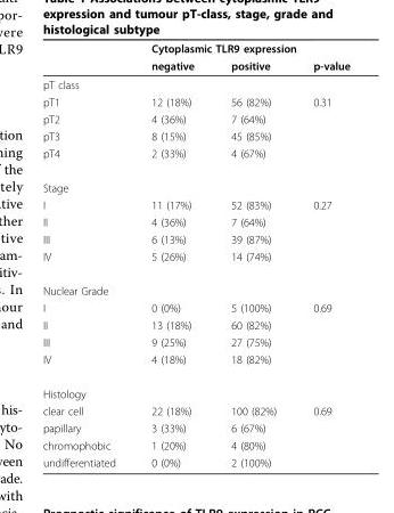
<table><thead><tr><td rowspan="2"></td><td colspan="3">Cytoplasmic TLR9 expression</td></tr><tr><td>negative</td><td>positive</td><td>p-value</td></tr></thead><tbody><tr><td colspan="4">pT class</td></tr><tr><td>pT1</td><td>12 (18%)</td><td>56 (82%)</td><td>0.31</td></tr><tr><td>pT2</td><td>4 (36%)</td><td>7 (64%)</td><td></td></tr><tr><td>pT3</td><td>8 (15%)</td><td>45 (85%)</td><td></td></tr><tr><td>pT4</td><td>2 (33%)</td><td>4 (67%)</td><td></td></tr><tr><td colspan="4">Stage</td></tr><tr><td>I</td><td>11 (17%)</td><td>52 (83%)</td><td>0.27</td></tr><tr><td>II</td><td>4 (36%)</td><td>7 (64%)</td><td></td></tr><tr><td>III</td><td>6 (13%)</td><td>39 (87%)</td><td></td></tr><tr><td>IV</td><td>5 (26%)</td><td>14 (74%)</td><td></td></tr><tr><td colspan="4">Nuclear Grade</td></tr><tr><td>I</td><td>0 (0%)</td><td>5 (100%)</td><td>0.69</td></tr><tr><td>II</td><td>13 (18%)</td><td>60 (82%)</td><td></td></tr><tr><td>III</td><td>9 (25%)</td><td>27 (75%)</td><td></td></tr><tr><td>IV</td><td>4 (18%)</td><td>18 (82%)</td><td></td></tr><tr><td colspan="4">Histology</td></tr><tr><td>clear cell</td><td>22 (18%)</td><td>100 (82%)</td><td>0.69</td></tr><tr><td>papillary</td><td>3 (33%)</td><td>6 (67%)</td><td></td></tr><tr><td>chromophobic</td><td>1 (20%)</td><td>4 (80%)</td><td></td></tr><tr><td>undifferentiated</td><td>0 (0%)</td><td>2 (100%)</td><td></td></tr></tbody></table>